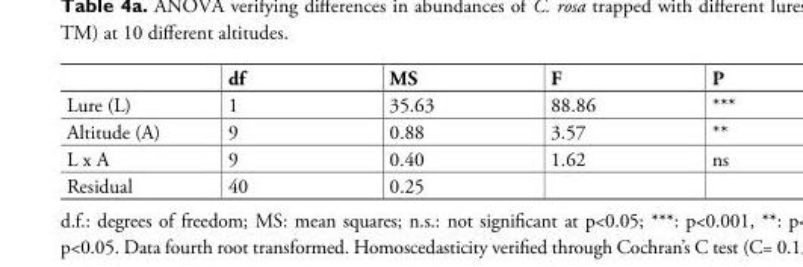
<table><thead><tr><td></td><td>df</td><td>MS</td><td>F</td><td>P</td></tr></thead><tbody><tr><td>Lure (L)</td><td>1</td><td>35.63</td><td>88.86</td><td>***</td></tr><tr><td>Altitude (A)</td><td>9</td><td>0.88</td><td>3.57</td><td>**</td></tr><tr><td>L x A</td><td>9</td><td>0.40</td><td>1.62</td><td>ns</td></tr><tr><td>Residual</td><td>40</td><td>0.25</td><td></td><td></td></tr></tbody></table>